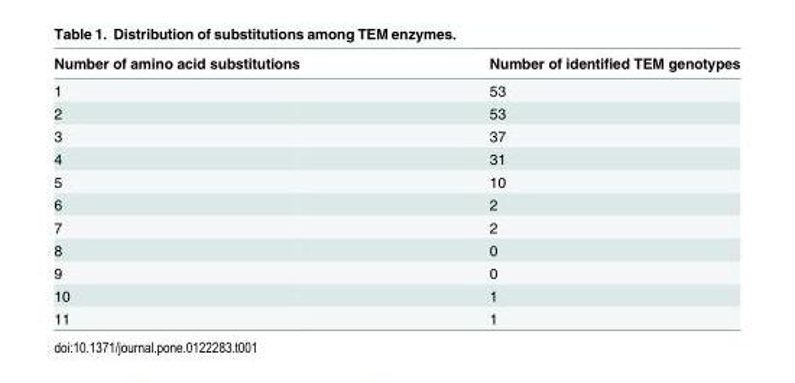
<table><thead><tr><td>Number of amino acid substitutions</td><td>Number of identified TEM genotypes</td></tr></thead><tbody><tr><td>1</td><td>53</td></tr><tr><td>2</td><td>53</td></tr><tr><td>3</td><td>37</td></tr><tr><td>4</td><td>31</td></tr><tr><td>5</td><td>10</td></tr><tr><td>6</td><td>2</td></tr><tr><td>7</td><td>2</td></tr><tr><td>8</td><td>0</td></tr><tr><td>9</td><td>0</td></tr><tr><td>10</td><td>1</td></tr><tr><td>11</td><td>1</td></tr></tbody></table>